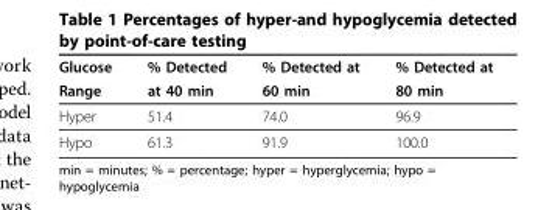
<table><thead><tr><td rowspan="2">Glucose Range</td><td rowspan="2">% Detected at 40 min</td><td rowspan="2">% Detected at 60 min</td><td rowspan="2">% Detected at 80 min</td></tr><tr></tr></thead><tbody><tr><td>Hyper</td><td>51.4</td><td>74.0</td><td>96.9</td></tr><tr><td>Hypo</td><td>61.3</td><td>91.9</td><td>100.0</td></tr></tbody></table>